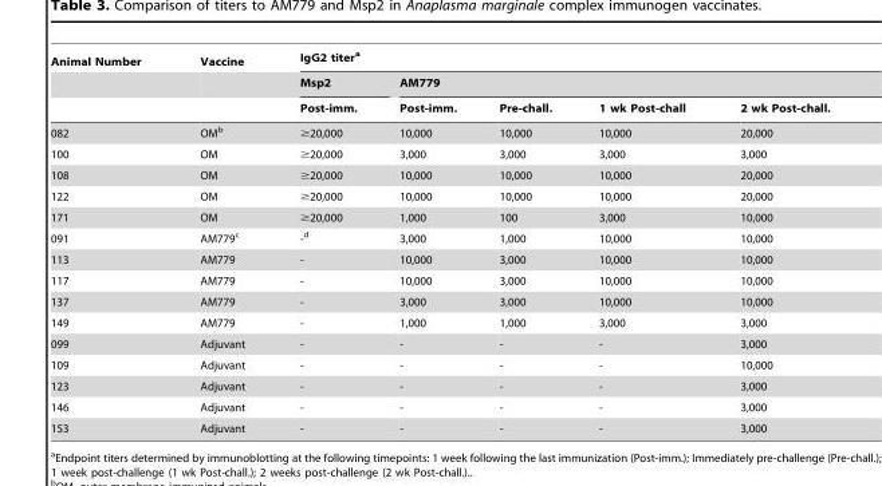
<table><thead><tr><td rowspan="3">Animal Number</td><td rowspan="3">Vaccine</td><td colspan="5">IgG2 titer<sup>a</sup></td></tr><tr><td rowspan="2">Msp2 Post-imm.</td><td colspan="4">AM779</td></tr><tr><td>Post-imm.</td><td>Pre-chall.</td><td>1 wk Post-chall</td><td>2 wk Post-chall.</td></tr></thead><tbody><tr><td>082</td><td>OM<sup>b</sup></td><td>≥20,000</td><td>10,000</td><td>10,000</td><td>10,000</td><td>20,000</td></tr><tr><td>100</td><td>OM</td><td>≥20,000</td><td>3,000</td><td>3,000</td><td>3,000</td><td>3,000</td></tr><tr><td>108</td><td>OM</td><td>≥20,000</td><td>10,000</td><td>10,000</td><td>10,000</td><td>20,000</td></tr><tr><td>122</td><td>OM</td><td>≥20,000</td><td>10,000</td><td>10,000</td><td>10,000</td><td>20,000</td></tr><tr><td>171</td><td>OM</td><td>≥20,000</td><td>1,000</td><td>100</td><td>3,000</td><td>10,000</td></tr><tr><td>091</td><td>AM779<sup>c</sup></td><td>-d</td><td>3,000</td><td>1,000</td><td>10,000</td><td>10,000</td></tr><tr><td>113</td><td>AM779</td><td>-</td><td>10,000</td><td>3,000</td><td>10,000</td><td>10,000</td></tr><tr><td>117</td><td>AM779</td><td>-</td><td>10,000</td><td>3,000</td><td>10,000</td><td>10,000</td></tr><tr><td>137</td><td>AM779</td><td>-</td><td>3,000</td><td>3,000</td><td>10,000</td><td>10,000</td></tr><tr><td>149</td><td>AM779</td><td>-</td><td>1,000</td><td>1,000</td><td>3,000</td><td>3,000</td></tr><tr><td>099</td><td>Adjuvant</td><td>-</td><td>-</td><td>-</td><td>-</td><td>3,000</td></tr><tr><td>109</td><td>Adjuvant</td><td>-</td><td>-</td><td>-</td><td>-</td><td>10,000</td></tr><tr><td>123</td><td>Adjuvant</td><td>-</td><td>-</td><td>-</td><td>-</td><td>3,000</td></tr><tr><td>146</td><td>Adjuvant</td><td>-</td><td>-</td><td>-</td><td>-</td><td>3,000</td></tr><tr><td>153</td><td>Adjuvant</td><td>-</td><td>-</td><td>-</td><td>-</td><td>3,000</td></tr></tbody></table>